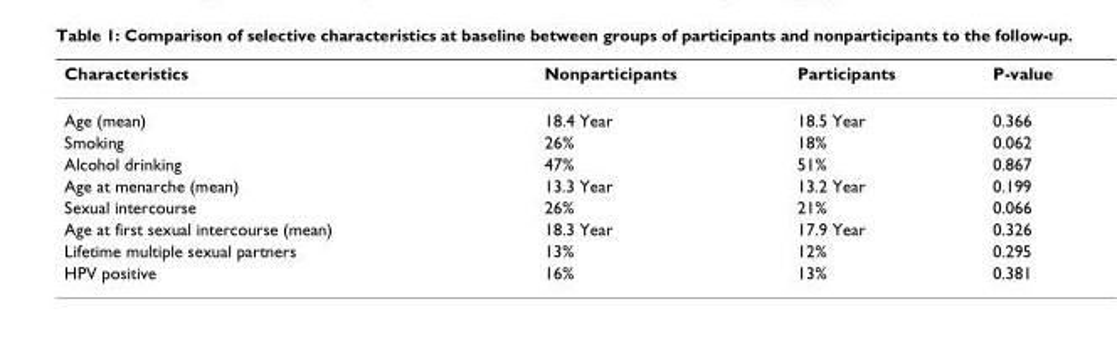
<table><thead><tr><td>Characteristics</td><td>Nonparticipants</td><td>Participants</td><td>P-value</td></tr></thead><tbody><tr><td>Age (mean)</td><td>18.4 Year</td><td>18.5 Year</td><td>0.366</td></tr><tr><td>Smoking</td><td>26%</td><td>18%</td><td>0.062</td></tr><tr><td>Alcohol drinking</td><td>47%</td><td>51%</td><td>0.867</td></tr><tr><td>Age at menarche (mean)</td><td>13.3 Year</td><td>13.2 Year</td><td>0.199</td></tr><tr><td>Sexual intercourse</td><td>26%</td><td>21%</td><td>0.066</td></tr><tr><td>Age at first sexual intercourse (mean)</td><td>18.3 Year</td><td>17.9 Year</td><td>0.326</td></tr><tr><td>Lifetime multiple sexual partners</td><td>13%</td><td>12%</td><td>0.295</td></tr><tr><td>HPV positive</td><td>16%</td><td>13%</td><td>0.381</td></tr></tbody></table>